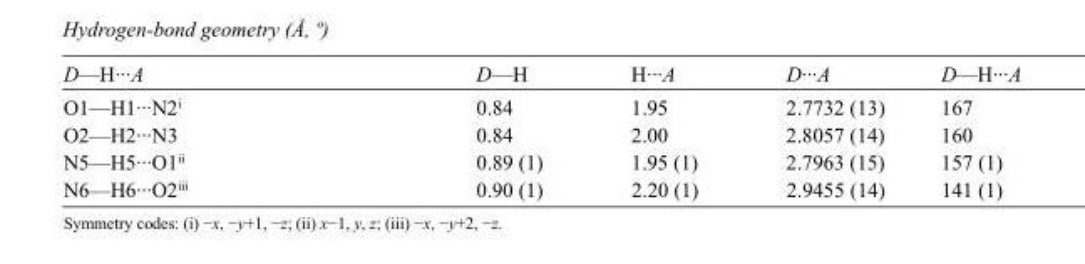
<table><tbody><tr><td>D—H···A</td><td>D—H</td><td>H···A</td><td>D···A</td><td>D—H···A</td></tr><tr><td>O1—H1···N2<sup>i</sup></td><td>0.84</td><td>1.95</td><td>2.7732 (13)</td><td>167</td></tr><tr><td>O2—H2···N3</td><td>0.84</td><td>2.00</td><td>2.8057 (14)</td><td>160</td></tr><tr><td>N5—H5···O1<sup>ii</sup></td><td>0.89 (1)</td><td>1.95 (1)</td><td>2.7963 (15)</td><td>157 (1)</td></tr><tr><td>N6—H6···O2<sup>iii</sup></td><td>0.90 (1)</td><td>2.20 (1)</td><td>2.9455 (14)</td><td>141 (1)</td></tr></tbody></table>